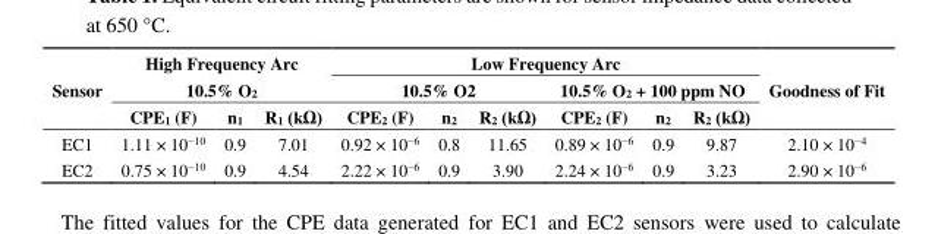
<table><thead><tr><td rowspan="3">Sensor</td><td rowspan="2" colspan="3">High Frequency Arc 10.5% O2</td><td colspan="6">Low Frequency Arc</td><td rowspan="3">Goodness of Fit</td></tr><tr><td colspan="3">10.5% O2</td><td colspan="3">10.5% O<sub>2</sub> + 100 ppm NO</td></tr><tr><td>CPE<sub>1</sub> (F)</td><td>n<sub>1</sub></td><td>R<sub>1</sub> (kΩ)</td><td>CPE<sub>2</sub> (F)</td><td>n<sub>2</sub></td><td>R<sub>2</sub> (kΩ)</td><td>CPE<sub>2</sub> (F)</td><td>n<sub>2</sub></td><td>R<sub>2</sub> (kΩ)</td></tr></thead><tbody><tr><td>EC1</td><td>1.11 × 10<sup>−10</sup></td><td>0.9</td><td>7.01</td><td>0.92 × 10<sup>−6</sup></td><td>0.8</td><td>11.65</td><td>0.89 × 10<sup>−6</sup></td><td>0.9</td><td>9.87</td><td>2.10 × 10<sup>−4</sup></td></tr><tr><td>EC2</td><td>0.75 × 10<sup>−10</sup></td><td>0.9</td><td>4.54</td><td>2.22 × 10<sup>−6</sup></td><td>0.9</td><td>3.90</td><td>2.24 × 10<sup>−6</sup></td><td>0.9</td><td>3.23</td><td>2.90 × 10<sup>−6</sup></td></tr></tbody></table>